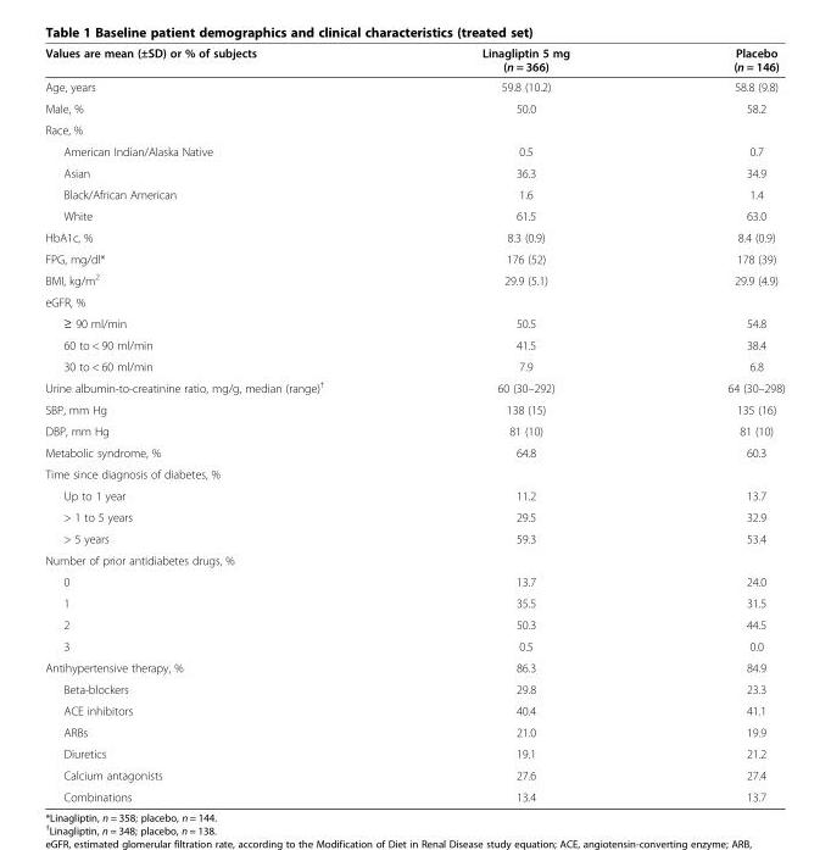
<table><thead><tr><td>Values are mean (±SD) or % of subjects</td><td>Linagliptin 5 mg (n = 366)</td><td>Placebo (n = 146)</td></tr></thead><tbody><tr><td>Age, years</td><td>59.8 (10.2)</td><td>58.8 (9.8)</td></tr><tr><td>Male, %</td><td>50.0</td><td>58.2</td></tr><tr><td colspan="3">Race, %</td></tr><tr><td>American Indian/Alaska Native</td><td>0.5</td><td>0.7</td></tr><tr><td>Asian</td><td>36.3</td><td>34.9</td></tr><tr><td>Black/African American</td><td>1.6</td><td>1.4</td></tr><tr><td>White</td><td>61.5</td><td>63.0</td></tr><tr><td>HbA1c, %</td><td>8.3 (0.9)</td><td>8.4 (0.9)</td></tr><tr><td>FPG, mg/dl*</td><td>176 (52)</td><td>178 (39)</td></tr><tr><td>BMI, kg/m<sup>2</sup></td><td>29.9 (5.1)</td><td>29.9 (4.9)</td></tr><tr><td colspan="3">eGFR, %</td></tr><tr><td>≥ 90 ml/min</td><td>50.5</td><td>54.8</td></tr><tr><td>60 to &lt; 90 ml/min</td><td>41.5</td><td>38.4</td></tr><tr><td>30 to &lt; 60 ml/min</td><td>7.9</td><td>6.8</td></tr><tr><td>Urine albumin-to-creatinine ratio, mg/g, median (range)<sup>†</sup></td><td>60 (30–292)</td><td>64 (30–298)</td></tr><tr><td>SBP, mm Hg</td><td>138 (15)</td><td>135 (16)</td></tr><tr><td>DBP, mm Hg</td><td>81 (10)</td><td>81 (10)</td></tr><tr><td>Metabolic syndrome, %</td><td>64.8</td><td>60.3</td></tr><tr><td colspan="3">Time since diagnosis of diabetes, %</td></tr><tr><td>Up to 1 year</td><td>11.2</td><td>13.7</td></tr><tr><td>&gt; 1 to 5 years</td><td>29.5</td><td>32.9</td></tr><tr><td>&gt; 5 years</td><td>59.3</td><td>53.4</td></tr><tr><td colspan="3">Number of prior antidiabetes drugs, %</td></tr><tr><td>0</td><td>13.7</td><td>24.0</td></tr><tr><td>1</td><td>35.5</td><td>31.5</td></tr><tr><td>2</td><td>50.3</td><td>44.5</td></tr><tr><td>3</td><td>0.5</td><td>0.0</td></tr><tr><td>Antihypertensive therapy, %</td><td>86.3</td><td>84.9</td></tr><tr><td>Beta-blockers</td><td>29.8</td><td>23.3</td></tr><tr><td>ACE inhibitors</td><td>40.4</td><td>41.1</td></tr><tr><td>ARBs</td><td>21.0</td><td>19.9</td></tr><tr><td>Diuretics</td><td>19.1</td><td>21.2</td></tr><tr><td>Calcium antagonists</td><td>27.6</td><td>27.4</td></tr><tr><td>Combinations</td><td>13.4</td><td>13.7</td></tr></tbody></table>